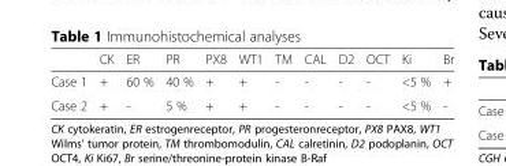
<table><thead><tr><td></td><td>CK</td><td>ER</td><td>PR</td><td>PX8</td><td>WT1</td><td>TM</td><td>CAL</td><td>D2</td><td>OCT</td><td>Ki</td><td>Br</td></tr></thead><tbody><tr><td>Case 1</td><td>+</td><td>60 %</td><td>40 %</td><td>+</td><td>+</td><td>-</td><td>-</td><td>-</td><td>-</td><td>&lt;5 %</td><td>+</td></tr><tr><td>Case 2</td><td>+</td><td>-</td><td>5 %</td><td>+</td><td>+</td><td>-</td><td>-</td><td>-</td><td>-</td><td>&lt;5 %</td><td>-</td></tr></tbody></table>